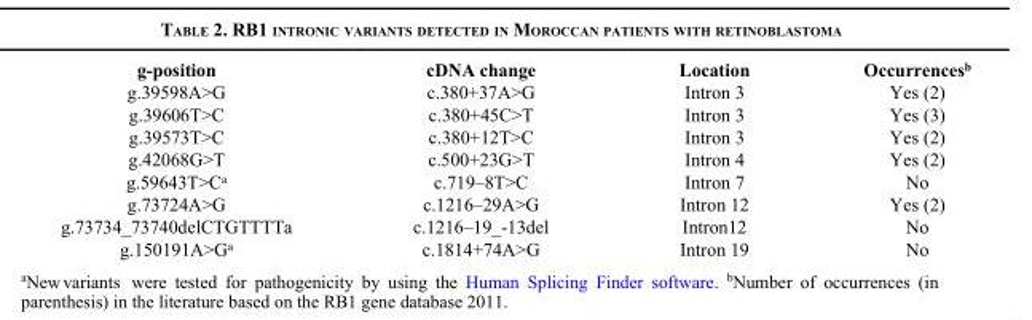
<table><thead><tr><td>g-position</td><td>cDNA change</td><td>Location</td><td>Occurrences<sup>b</sup></td></tr></thead><tbody><tr><td>g.39598A&gt;G</td><td>c.380+37A&gt;G</td><td>Intron 3</td><td>Yes (2)</td></tr><tr><td>g.39606T&gt;C</td><td>c.380+45C&gt;T</td><td>Intron 3</td><td>Yes (3)</td></tr><tr><td>g.39573T&gt;C</td><td>c.380+12T&gt;C</td><td>Intron 3</td><td>Yes (2)</td></tr><tr><td>g.42068G&gt;T</td><td>c.500+23G&gt;T</td><td>Intron 4</td><td>Yes (2)</td></tr><tr><td>g.59643T&gt;C<sup>a</sup></td><td>c.719–8T&gt;C</td><td>Intron 7</td><td>No</td></tr><tr><td>g.73724A&gt;G</td><td>c.1216–29A&gt;G</td><td>Intron 12</td><td>Yes (2)</td></tr><tr><td>g.73734_73740delCTGTTTTa</td><td>c.1216–19_-13del</td><td>Intron12</td><td>No</td></tr><tr><td>g.150191A&gt;G<sup>a</sup></td><td>c.1814+74A&gt;G</td><td>Intron 19</td><td>No</td></tr></tbody></table>